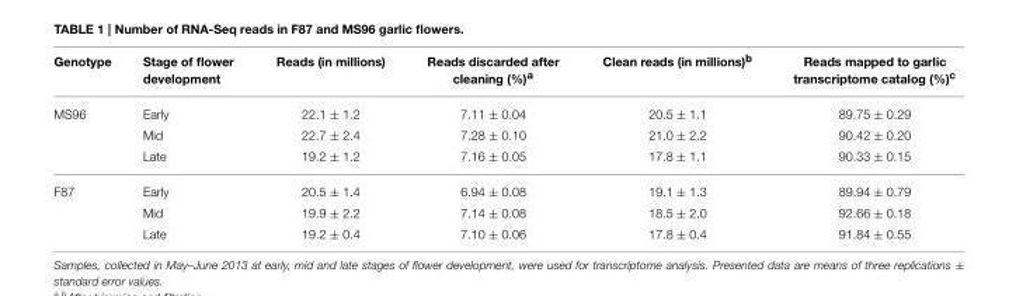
<table><thead><tr><td>Genotype</td><td>Stage of flower development</td><td>Reads (in millions)</td><td>Reads discarded after cleaning (%)<sup>a</sup></td><td>Clean reads (in millions)<sup>b</sup></td><td>Reads mapped to garlic transcriptome catalog (%)<sup>c</sup></td></tr></thead><tbody><tr><td rowspan="3">MS96</td><td>Early</td><td>22.1 ± 1.2</td><td>7.11 ± 0.04</td><td>20.5 ± 1.1</td><td>89.75 ± 0.29</td></tr><tr><td>Mid</td><td>22.7 ± 2.4</td><td>7.28 ± 0.10</td><td>21.0 ± 2.2</td><td>90.42 ± 0.20</td></tr><tr><td>Late</td><td>19.2 ± 1.2</td><td>7.16 ± 0.05</td><td>17.8 ± 1.1</td><td>90.33 ± 0.15</td></tr><tr><td rowspan="3">F87</td><td>Early</td><td>20.5 ± 1.4</td><td>6.94 ± 0.08</td><td>19.1 ± 1.3</td><td>89.94 ± 0.79</td></tr><tr><td>Mid</td><td>19.9 ± 2.2</td><td>7.14 ± 0.08</td><td>18.5 ± 2.0</td><td>92.66 ± 0.18</td></tr><tr><td>Late</td><td>19.2 ± 0.4</td><td>7.10 ± 0.06</td><td>17.8 ± 0.4</td><td>91.84 ± 0.55</td></tr></tbody></table>